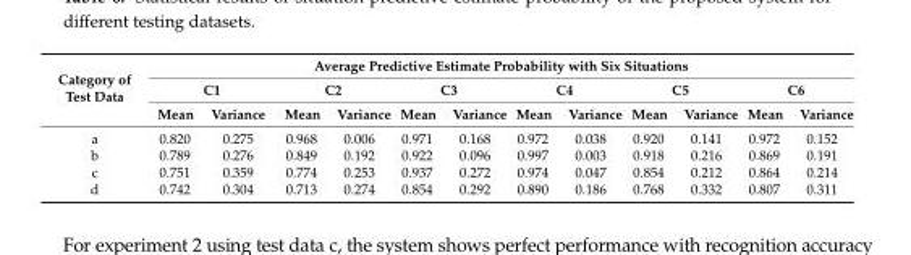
<table><thead><tr><td rowspan="3">Category of Test Data</td><td colspan="12">Average Predictive Estimate Probability with Six Situations</td></tr><tr><td colspan="2">C1</td><td colspan="2">C2</td><td colspan="2">C3</td><td colspan="2">C4</td><td colspan="2">C5</td><td colspan="2">C6</td></tr><tr><td>Mean</td><td>Variance</td><td>Mean</td><td>Variance</td><td>Mean</td><td>Variance</td><td>Mean</td><td>Variance</td><td>Mean</td><td>Variance</td><td>Mean</td><td>Variance</td></tr></thead><tbody><tr><td>a</td><td>0.820</td><td>0.275</td><td>0.968</td><td>0.006</td><td>0.971</td><td>0.168</td><td>0.972</td><td>0.038</td><td>0.920</td><td>0.141</td><td>0.972</td><td>0.152</td></tr><tr><td>b</td><td>0.789</td><td>0.276</td><td>0.849</td><td>0.192</td><td>0.922</td><td>0.096</td><td>0.997</td><td>0.003</td><td>0.918</td><td>0.216</td><td>0.869</td><td>0.191</td></tr><tr><td>c</td><td>0.751</td><td>0.359</td><td>0.774</td><td>0.253</td><td>0.937</td><td>0.272</td><td>0.974</td><td>0.047</td><td>0.854</td><td>0.212</td><td>0.864</td><td>0.214</td></tr><tr><td>d</td><td>0.742</td><td>0.304</td><td>0.713</td><td>0.274</td><td>0.854</td><td>0.292</td><td>0.890</td><td>0.186</td><td>0.768</td><td>0.332</td><td>0.807</td><td>0.311</td></tr></tbody></table>